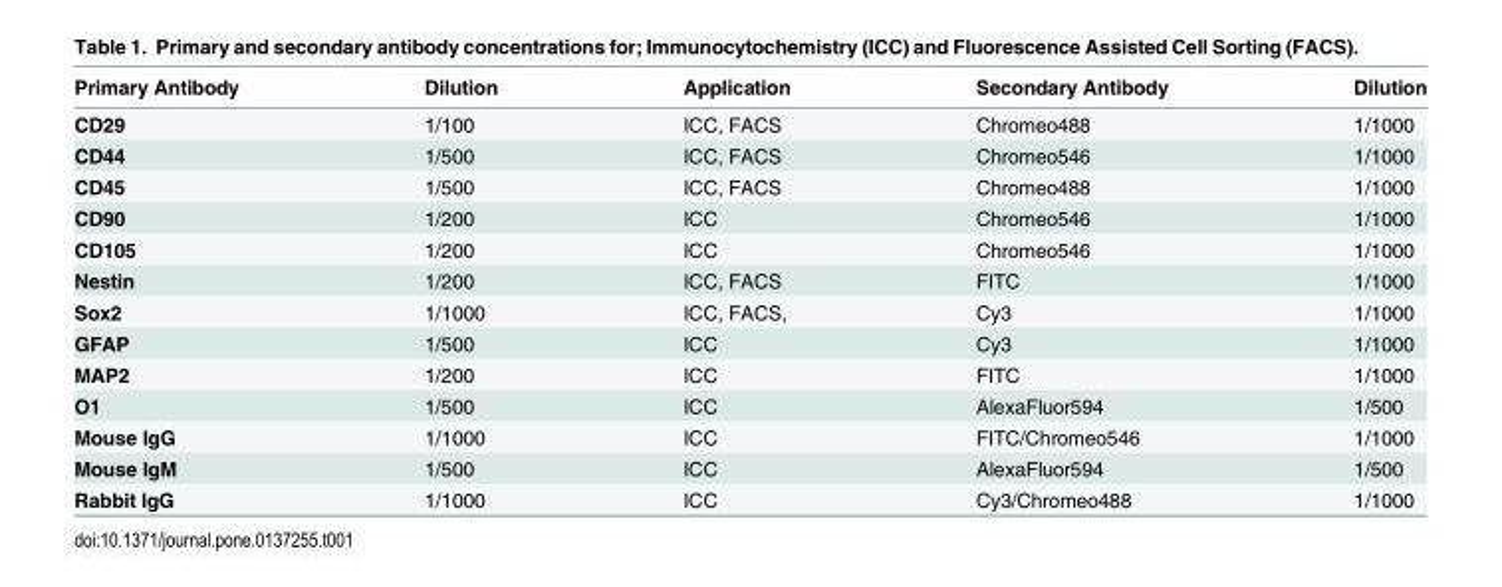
<table><thead><tr><td>Primary Antibody</td><td>Dilution</td><td>Application</td><td>Secondary Antibody</td><td>Dilution</td></tr></thead><tbody><tr><td>CD29</td><td>1/100</td><td>ICC, FACS</td><td>Chromeo488</td><td>1/1000</td></tr><tr><td>CD44</td><td>1/500</td><td>ICC, FACS</td><td>Chromeo546</td><td>1/1000</td></tr><tr><td>CD45</td><td>1/500</td><td>ICC, FACS</td><td>Chromeo488</td><td>1/1000</td></tr><tr><td>CD90</td><td>1/200</td><td>ICC</td><td>Chromeo546</td><td>1/1000</td></tr><tr><td>CD105</td><td>1/200</td><td>ICC</td><td>Chromeo546</td><td>1/1000</td></tr><tr><td>Nestin</td><td>1/200</td><td>ICC, FACS</td><td>FITC</td><td>1/1000</td></tr><tr><td>Sox2</td><td>1/1000</td><td>ICC, FACS,</td><td>Cy3</td><td>1/1000</td></tr><tr><td>GFAP</td><td>1/500</td><td>ICC</td><td>Cy3</td><td>1/1000</td></tr><tr><td>MAP2</td><td>1/200</td><td>ICC</td><td>FITC</td><td>1/1000</td></tr><tr><td>O1</td><td>1/500</td><td>ICC</td><td>AlexaFluor594</td><td>1/500</td></tr><tr><td>Mouse IgG</td><td>1/1000</td><td>ICC</td><td>FITC/Chromeo546</td><td>1/1000</td></tr><tr><td>Mouse IgM</td><td>1/500</td><td>ICC</td><td>AlexaFluor594</td><td>1/500</td></tr><tr><td>Rabbit IgG</td><td>1/1000</td><td>ICC</td><td>Cy3/Chromeo488</td><td>1/1000</td></tr></tbody></table>